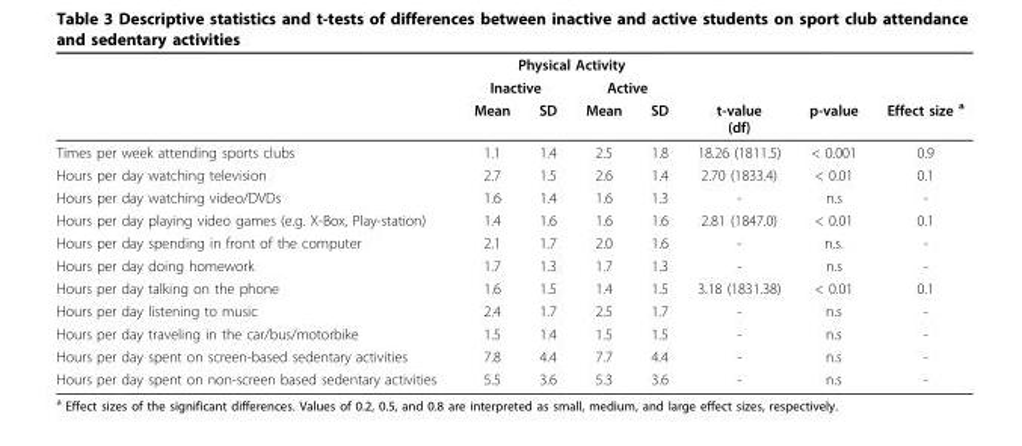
<table><thead><tr><td rowspan="3"></td><td colspan="4">Physical Activity</td><td rowspan="3">t-value (df)</td><td rowspan="3">p-value</td><td rowspan="3">Effect size <sup>a</sup></td></tr><tr><td colspan="2">Inactive</td><td colspan="2">Active</td></tr><tr><td>Mean</td><td>SD</td><td>Mean</td><td>SD</td></tr></thead><tbody><tr><td>Times per week attending sports clubs</td><td>1.1</td><td>1.4</td><td>2.5</td><td>1.8</td><td>18.26 (1811.5)</td><td>&lt; 0.001</td><td>0.9</td></tr><tr><td>Hours per day watching television</td><td>2.7</td><td>1.5</td><td>2.6</td><td>1.4</td><td>2.70 (1833.4)</td><td>&lt; 0.01</td><td>0.1</td></tr><tr><td>Hours per day watching video/DVDs</td><td>1.6</td><td>1.4</td><td>1.6</td><td>1.3</td><td>-</td><td>n.s</td><td>-</td></tr><tr><td>Hours per day playing video games (e.g. X-Box, Play-station)</td><td>1.4</td><td>1.6</td><td>1.6</td><td>1.6</td><td>2.81 (1847.0)</td><td>&lt; 0.01</td><td>0.1</td></tr><tr><td>Hours per day spending in front of the computer</td><td>2.1</td><td>1.7</td><td>2.0</td><td>1.6</td><td>-</td><td>n.s.</td><td>-</td></tr><tr><td>Hours per day doing homework</td><td>1.7</td><td>1.3</td><td>1.7</td><td>1.3</td><td>-</td><td>n.s</td><td>-</td></tr><tr><td>Hours per day talking on the phone</td><td>1.6</td><td>1.5</td><td>1.4</td><td>1.5</td><td>3.18 (1831.38)</td><td>&lt; 0.01</td><td>0.1</td></tr><tr><td>Hours per day listening to music</td><td>2.4</td><td>1.7</td><td>2.5</td><td>1.7</td><td>-</td><td>n.s</td><td>-</td></tr><tr><td>Hours per day traveling in the car/bus/motorbike</td><td>1.5</td><td>1.4</td><td>1.5</td><td>1.5</td><td>-</td><td>n.s</td><td>-</td></tr><tr><td>Hours per day spent on screen-based sedentary activities</td><td>7.8</td><td>4.4</td><td>7.7</td><td>4.4</td><td>-</td><td>n.s</td><td>-</td></tr><tr><td>Hours per day spent on non-screen based sedentary activities</td><td>5.5</td><td>3.6</td><td>5.3</td><td>3.6</td><td>-</td><td>n.s</td><td>-</td></tr></tbody></table>